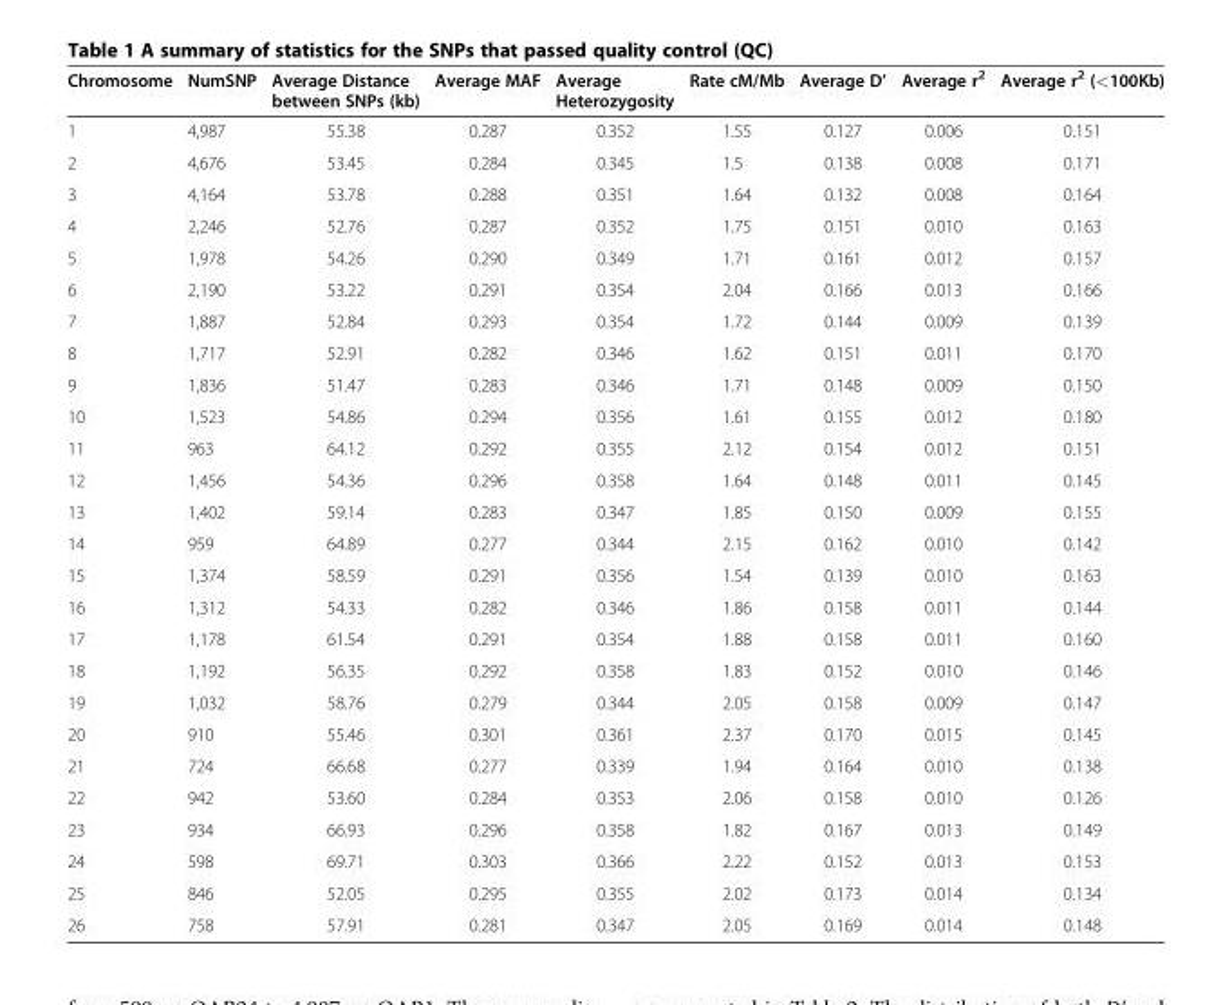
<table><thead><tr><td>Chromosome</td><td>NumSNP</td><td>Average Distance between SNPs (kb)</td><td>Average MAF</td><td>Average Heterozygosity</td><td>Rate cM/Mb</td><td>Average D’</td><td>Average r<sup>2</sup></td><td>Average r<sup>2</sup> (&lt;100Kb)</td></tr></thead><tbody><tr><td>1</td><td>4,987</td><td>55.38</td><td>0.287</td><td>0.352</td><td>1.55</td><td>0.127</td><td>0.006</td><td>0.151</td></tr><tr><td>2</td><td>4,676</td><td>53.45</td><td>0.284</td><td>0.345</td><td>1.5</td><td>0.138</td><td>0.008</td><td>0.171</td></tr><tr><td>3</td><td>4,164</td><td>53.78</td><td>0.288</td><td>0.351</td><td>1.64</td><td>0.132</td><td>0.008</td><td>0.164</td></tr><tr><td>4</td><td>2,246</td><td>52.76</td><td>0.287</td><td>0.352</td><td>1.75</td><td>0.151</td><td>0.010</td><td>0.163</td></tr><tr><td>5</td><td>1,978</td><td>54.26</td><td>0.290</td><td>0.349</td><td>1.71</td><td>0.161</td><td>0.012</td><td>0.157</td></tr><tr><td>6</td><td>2,190</td><td>53.22</td><td>0.291</td><td>0.354</td><td>2.04</td><td>0.166</td><td>0.013</td><td>0.166</td></tr><tr><td>7</td><td>1,887</td><td>52.84</td><td>0.293</td><td>0.354</td><td>1.72</td><td>0.144</td><td>0.009</td><td>0.139</td></tr><tr><td>8</td><td>1,717</td><td>52.91</td><td>0.282</td><td>0.346</td><td>1.62</td><td>0.151</td><td>0.011</td><td>0.170</td></tr><tr><td>9</td><td>1,836</td><td>51.47</td><td>0.283</td><td>0.346</td><td>1.71</td><td>0.148</td><td>0.009</td><td>0.150</td></tr><tr><td>10</td><td>1,523</td><td>54.86</td><td>0.294</td><td>0.356</td><td>1.61</td><td>0.155</td><td>0.012</td><td>0.180</td></tr><tr><td>11</td><td>963</td><td>64.12</td><td>0.292</td><td>0.355</td><td>2.12</td><td>0.154</td><td>0.012</td><td>0.151</td></tr><tr><td>12</td><td>1,456</td><td>54.36</td><td>0.296</td><td>0.358</td><td>1.64</td><td>0.148</td><td>0.011</td><td>0.145</td></tr><tr><td>13</td><td>1,402</td><td>59.14</td><td>0.283</td><td>0.347</td><td>1.85</td><td>0.150</td><td>0.009</td><td>0.155</td></tr><tr><td>14</td><td>959</td><td>64.89</td><td>0.277</td><td>0.344</td><td>2.15</td><td>0.162</td><td>0.010</td><td>0.142</td></tr><tr><td>15</td><td>1,374</td><td>58.59</td><td>0.291</td><td>0.356</td><td>1.54</td><td>0.139</td><td>0.010</td><td>0.163</td></tr><tr><td>16</td><td>1,312</td><td>54.33</td><td>0.282</td><td>0.346</td><td>1.86</td><td>0.158</td><td>0.011</td><td>0.144</td></tr><tr><td>17</td><td>1,178</td><td>61.54</td><td>0.291</td><td>0.354</td><td>1.88</td><td>0.158</td><td>0.011</td><td>0.160</td></tr><tr><td>18</td><td>1,192</td><td>56.35</td><td>0.292</td><td>0.358</td><td>1.83</td><td>0.152</td><td>0.010</td><td>0.146</td></tr><tr><td>19</td><td>1,032</td><td>58.76</td><td>0.279</td><td>0.344</td><td>2.05</td><td>0.158</td><td>0.009</td><td>0.147</td></tr><tr><td>20</td><td>910</td><td>55.46</td><td>0.301</td><td>0.361</td><td>2.37</td><td>0.170</td><td>0.015</td><td>0.145</td></tr><tr><td>21</td><td>724</td><td>66.68</td><td>0.277</td><td>0.339</td><td>1.94</td><td>0.164</td><td>0.010</td><td>0.138</td></tr><tr><td>22</td><td>942</td><td>53.60</td><td>0.284</td><td>0.353</td><td>2.06</td><td>0.158</td><td>0.010</td><td>0.126</td></tr><tr><td>23</td><td>934</td><td>66.93</td><td>0.296</td><td>0.358</td><td>1.82</td><td>0.167</td><td>0.013</td><td>0.149</td></tr><tr><td>24</td><td>598</td><td>69.71</td><td>0.303</td><td>0.366</td><td>2.22</td><td>0.152</td><td>0.013</td><td>0.153</td></tr><tr><td>25</td><td>846</td><td>52.05</td><td>0.295</td><td>0.355</td><td>2.02</td><td>0.173</td><td>0.014</td><td>0.134</td></tr><tr><td>26</td><td>758</td><td>57.91</td><td>0.281</td><td>0.347</td><td>2.05</td><td>0.169</td><td>0.014</td><td>0.148</td></tr></tbody></table>